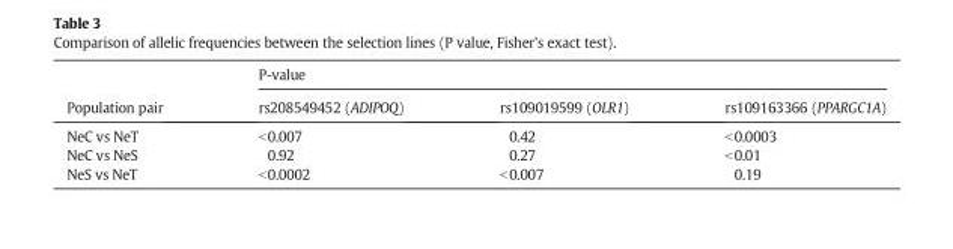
<table><thead><tr><td rowspan="2">Population pair</td><td colspan="3">P-value</td></tr><tr><td>rs208549452 (ADIPOQ)</td><td>rs109019599 (OLR1)</td><td>rs109163366 (PPARGC1A)</td></tr></thead><tbody><tr><td>NeC vs NeT</td><td>&lt;0.007</td><td>0.42</td><td>&lt;0.0003</td></tr><tr><td>NeC vs NeS</td><td>0.92</td><td>0.27</td><td>&lt;0.01</td></tr><tr><td>NeS vs NeT</td><td>&lt;0.0002</td><td>&lt;0.007</td><td>0.19</td></tr></tbody></table>